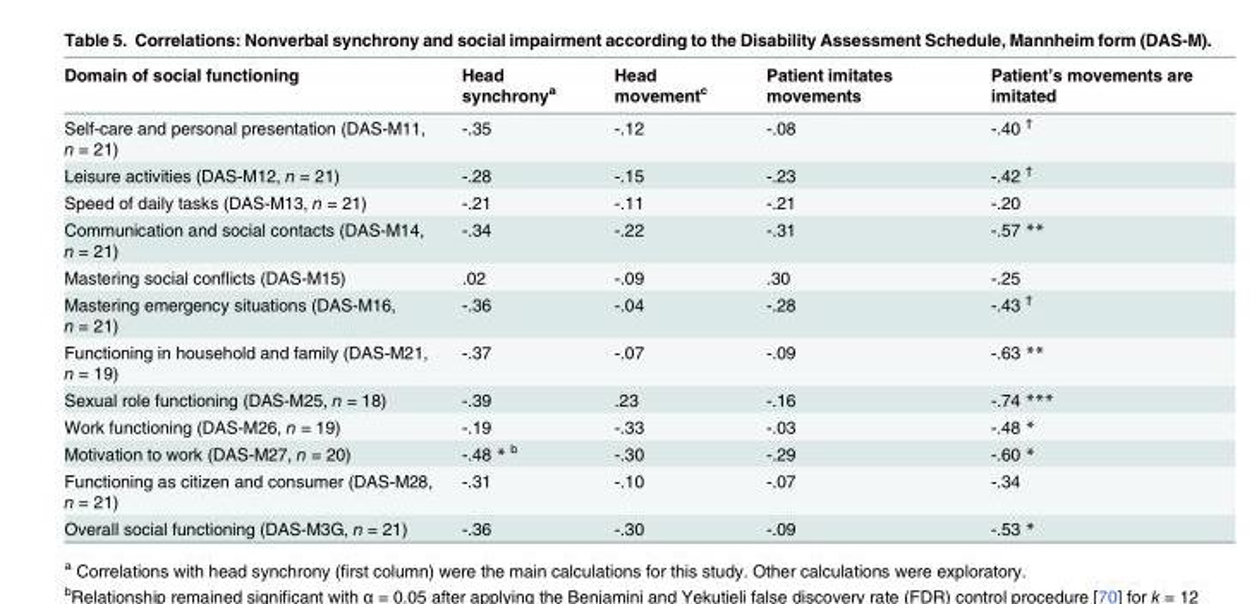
<table><thead><tr><td>Domain of social functioning</td><td>Head synchrony<sup>a</sup></td><td>Head movement<sup>c</sup></td><td>Patient imitates movements</td><td>Patient’s movements are imitated</td></tr></thead><tbody><tr><td>Self-care and personal presentation (DAS-M11, n = 21)</td><td>-.35</td><td>-.12</td><td>-.08</td><td>-.40 <sup>†</sup></td></tr><tr><td>Leisure activities (DAS-M12, n = 21)</td><td>-.28</td><td>-.15</td><td>-.23</td><td>-.42 <sup>†</sup></td></tr><tr><td>Speed of daily tasks (DAS-M13, n = 21)</td><td>-.21</td><td>-.11</td><td>-.21</td><td>-.20</td></tr><tr><td>Communication and social contacts (DAS-M14, n = 21)</td><td>-.34</td><td>-.22</td><td>-.31</td><td>-.57 **</td></tr><tr><td>Mastering social conflicts (DAS-M15)</td><td>.02</td><td>-.09</td><td>.30</td><td>-.25</td></tr><tr><td>Mastering emergency situations (DAS-M16, n = 21)</td><td>-.36</td><td>-.04</td><td>-.28</td><td>-.43 <sup>†</sup></td></tr><tr><td>Functioning in household and family (DAS-M21, n = 19)</td><td>-.37</td><td>-.07</td><td>-.09</td><td>-.63 **</td></tr><tr><td>Sexual role functioning (DAS-M25, n = 18)</td><td>-.39</td><td>.23</td><td>-.16</td><td>-.74 ***</td></tr><tr><td>Work functioning (DAS-M26, n = 19)</td><td>-.19</td><td>-.33</td><td>-.03</td><td>-.48 *</td></tr><tr><td>Motivation to work (DAS-M27, n = 20)</td><td>-.48 * <sup>b</sup></td><td>-.30</td><td>-.29</td><td>-.60 *</td></tr><tr><td>Functioning as citizen and consumer (DAS-M28, n = 21)</td><td>-.31</td><td>-.10</td><td>-.07</td><td>-.34</td></tr><tr><td>Overall social functioning (DAS-M3G, n = 21)</td><td>-.36</td><td>-.30</td><td>-.09</td><td>-.53 *</td></tr></tbody></table>